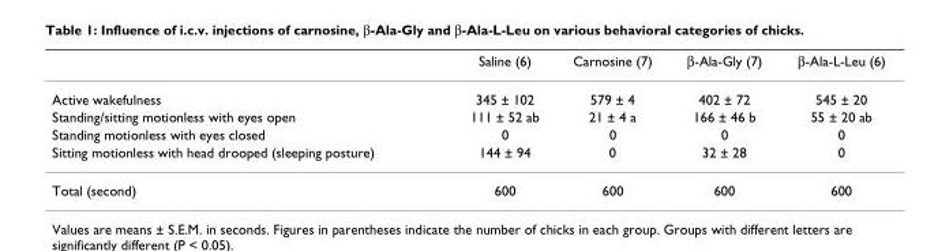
<table><thead><tr><td></td><td>Saline (6)</td><td>Carnosine (7)</td><td>β-Ala-Gly (7)</td><td>β-Ala-L-Leu (6)</td></tr></thead><tbody><tr><td>Active wakefulness</td><td>345 ± 102</td><td>579 ± 4</td><td>402 ± 72</td><td>545 ± 20</td></tr><tr><td>Standing/sitting motionless with eyes open</td><td>111 ± 52 ab</td><td>21 ± 4 a</td><td>166 ± 46 b</td><td>55 ± 20 ab</td></tr><tr><td>Standing motionless with eyes closed</td><td>0</td><td>0</td><td>0</td><td>0</td></tr><tr><td>Sitting motionless with head drooped (sleeping posture)</td><td>144 ± 94</td><td>0</td><td>32 ± 28</td><td>0</td></tr><tr><td>Total (second)</td><td>600</td><td>600</td><td>600</td><td>600</td></tr></tbody></table>